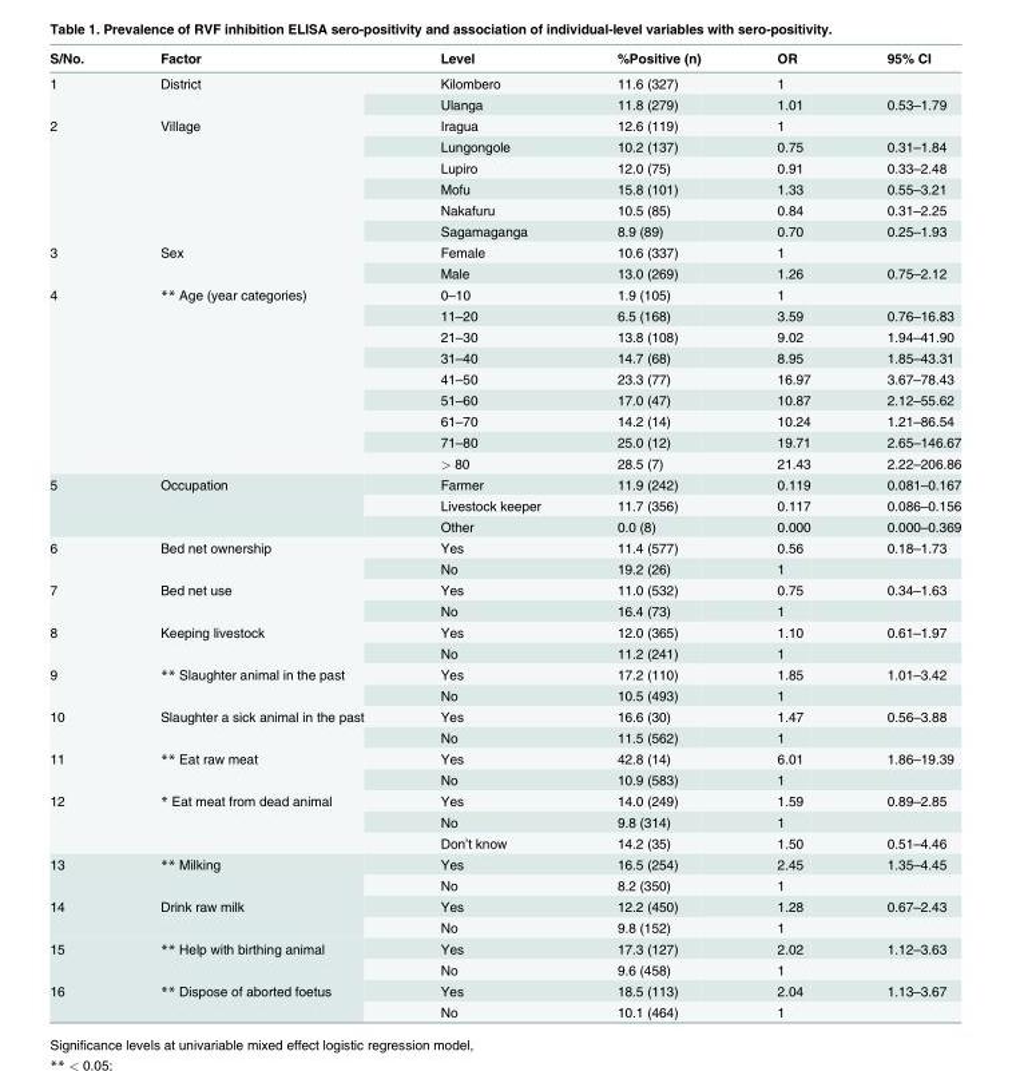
<table><thead><tr><td>S/No.</td><td>Factor</td><td>Level</td><td>%Positive (n)</td><td>OR</td><td>95% CI</td></tr></thead><tbody><tr><td rowspan="2">1</td><td rowspan="2">District</td><td>Kilombero</td><td>11.6 (327)</td><td>1</td><td></td></tr><tr><td>Ulanga</td><td>11.8 (279)</td><td>1.01</td><td>0.53–1.79</td></tr><tr><td rowspan="6">2</td><td rowspan="6">Village</td><td>Iragua</td><td>12.6 (119)</td><td>1</td><td></td></tr><tr><td>Lungongole</td><td>10.2 (137)</td><td>0.75</td><td>0.31–1.84</td></tr><tr><td>Lupiro</td><td>12.0 (75)</td><td>0.91</td><td>0.33–2.48</td></tr><tr><td>Mofu</td><td>15.8 (101)</td><td>1.33</td><td>0.55–3.21</td></tr><tr><td>Nakafuru</td><td>10.5 (85)</td><td>0.84</td><td>0.31–2.25</td></tr><tr><td>Sagamaganga</td><td>8.9 (89)</td><td>0.70</td><td>0.25–1.93</td></tr><tr><td rowspan="2">3</td><td rowspan="2">Sex</td><td>Female</td><td>10.6 (337)</td><td>1</td><td></td></tr><tr><td>Male</td><td>13.0 (269)</td><td>1.26</td><td>0.75–2.12</td></tr><tr><td rowspan="9">4</td><td rowspan="9">** Age (year categories)</td><td>0–10</td><td>1.9 (105)</td><td>1</td><td></td></tr><tr><td>11–20</td><td>6.5 (168)</td><td>3.59</td><td>0.76–16.83</td></tr><tr><td>21–30</td><td>13.8 (108)</td><td>9.02</td><td>1.94–41.90</td></tr><tr><td>31–40</td><td>14.7 (68)</td><td>8.95</td><td>1.85–43.31</td></tr><tr><td>41–50</td><td>23.3 (77)</td><td>16.97</td><td>3.67–78.43</td></tr><tr><td>51–60</td><td>17.0 (47)</td><td>10.87</td><td>2.12–55.62</td></tr><tr><td>61–70</td><td>14.2 (14)</td><td>10.24</td><td>1.21–86.54</td></tr><tr><td>71–80</td><td>25.0 (12)</td><td>19.71</td><td>2.65–146.67</td></tr><tr><td>&gt; 80</td><td>28.5 (7)</td><td>21.43</td><td>2.22–206.86</td></tr><tr><td rowspan="3">5</td><td rowspan="3">Occupation</td><td>Farmer</td><td>11.9 (242)</td><td>0.119</td><td>0.081–0.167</td></tr><tr><td>Livestock keeper</td><td>11.7 (356)</td><td>0.117</td><td>0.086–0.156</td></tr><tr><td>Other</td><td>0.0 (8)</td><td>0.000</td><td>0.000–0.369</td></tr><tr><td rowspan="2">6</td><td rowspan="2">Bed net ownership</td><td>Yes</td><td>11.4 (577)</td><td>0.56</td><td>0.18–1.73</td></tr><tr><td>No</td><td>19.2 (26)</td><td>1</td><td></td></tr><tr><td rowspan="2">7</td><td rowspan="2">Bed net use</td><td>Yes</td><td>11.0 (532)</td><td>0.75</td><td>0.34–1.63</td></tr><tr><td>No</td><td>16.4 (73)</td><td>1</td><td></td></tr><tr><td rowspan="2">8</td><td rowspan="2">Keeping livestock</td><td>Yes</td><td>12.0 (365)</td><td>1.10</td><td>0.61–1.97</td></tr><tr><td>No</td><td>11.2 (241)</td><td>1</td><td></td></tr><tr><td rowspan="2">9</td><td rowspan="2">** Slaughter animal in the past</td><td>Yes</td><td>17.2 (110)</td><td>1.85</td><td>1.01–3.42</td></tr><tr><td>No</td><td>10.5 (493)</td><td>1</td><td></td></tr><tr><td rowspan="2">10</td><td rowspan="2">Slaughter a sick animal in the past</td><td>Yes</td><td>16.6 (30)</td><td>1.47</td><td>0.56–3.88</td></tr><tr><td>No</td><td>11.5 (562)</td><td>1</td><td></td></tr><tr><td rowspan="2">11</td><td rowspan="2">** Eat raw meat</td><td>Yes</td><td>42.8 (14)</td><td>6.01</td><td>1.86–19.39</td></tr><tr><td>No</td><td>10.9 (583)</td><td>1</td><td></td></tr><tr><td rowspan="3">12</td><td rowspan="3">* Eat meat from dead animal</td><td>Yes</td><td>14.0 (249)</td><td>1.59</td><td>0.89–2.85</td></tr><tr><td>No</td><td>9.8 (314)</td><td>1</td><td></td></tr><tr><td>Don’t know</td><td>14.2 (35)</td><td>1.50</td><td>0.51–4.46</td></tr><tr><td rowspan="2">13</td><td rowspan="2">** Milking</td><td>Yes</td><td>16.5 (254)</td><td>2.45</td><td>1.35–4.45</td></tr><tr><td>No</td><td>8.2 (350)</td><td>1</td><td></td></tr><tr><td rowspan="2">14</td><td rowspan="2">Drink raw milk</td><td>Yes</td><td>12.2 (450)</td><td>1.28</td><td>0.67–2.43</td></tr><tr><td>No</td><td>9.8 (152)</td><td>1</td><td></td></tr><tr><td rowspan="2">15</td><td rowspan="2">** Help with birthing animal</td><td>Yes</td><td>17.3 (127)</td><td>2.02</td><td>1.12–3.63</td></tr><tr><td>No</td><td>9.6 (458)</td><td>1</td><td></td></tr><tr><td rowspan="2">16</td><td rowspan="2">** Dispose of aborted foetus</td><td>Yes</td><td>18.5 (113)</td><td>2.04</td><td>1.13–3.67</td></tr><tr><td>No</td><td>10.1 (464)</td><td>1</td><td></td></tr></tbody></table>